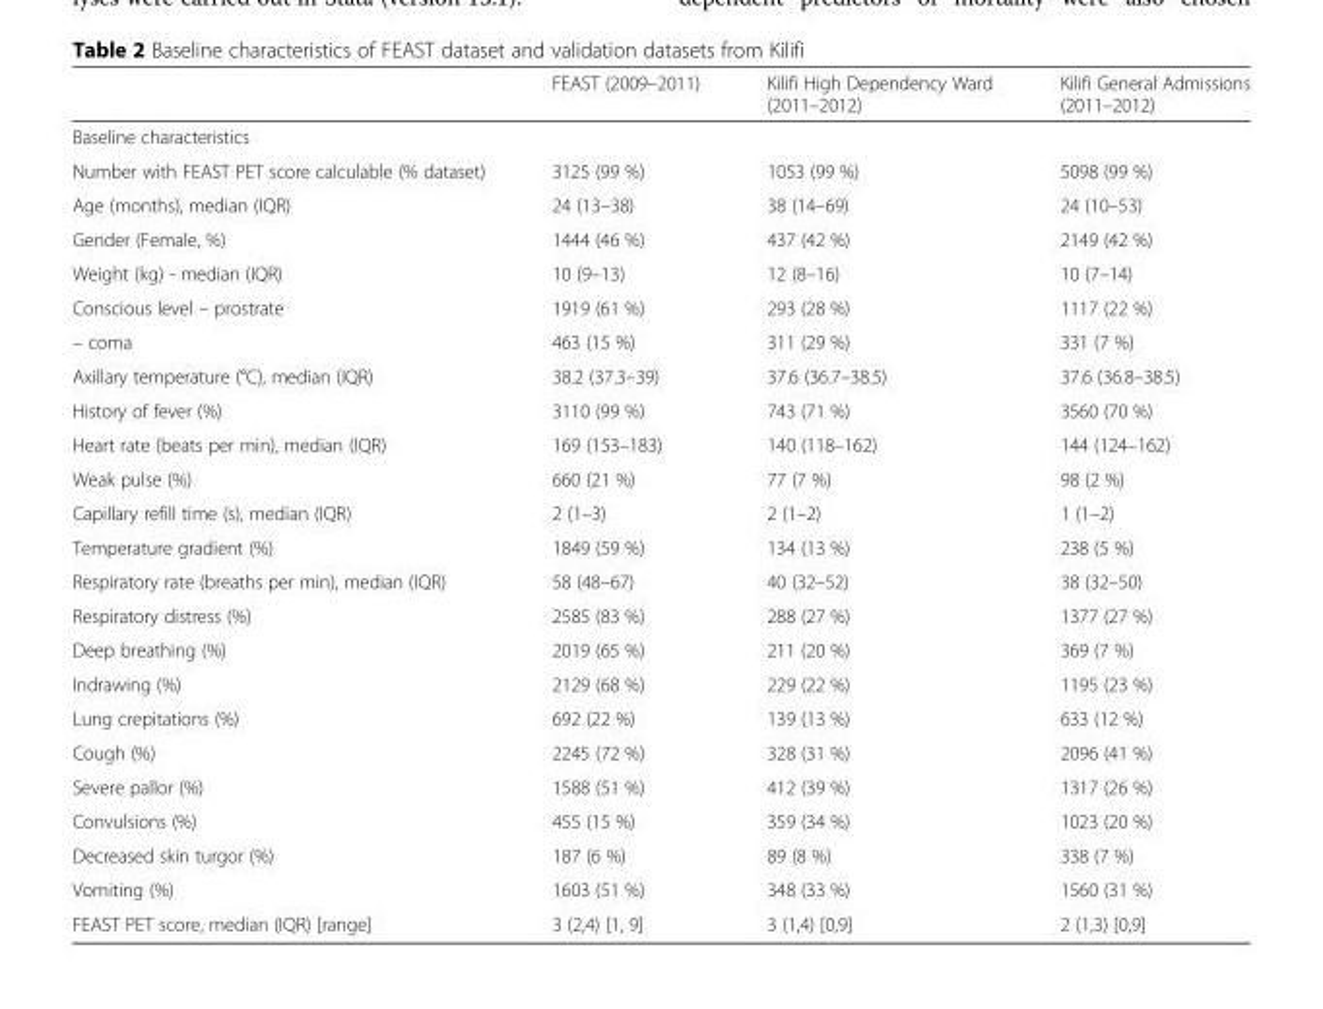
<table><thead><tr><td></td><td>FEAST (2009–2011)</td><td>Kilifi High Dependency Ward (2011–2012)</td><td>Kilifi General Admissions (2011–2012)</td></tr></thead><tbody><tr><td colspan="4">Baseline characteristics</td></tr><tr><td>Number with FEAST PET score calculable (% dataset)</td><td>3125 (99 %)</td><td>1053 (99 %)</td><td>5098 (99 %)</td></tr><tr><td>Age (months), median (IQR)</td><td>24 (13–38)</td><td>38 (14–69)</td><td>24 (10–53)</td></tr><tr><td>Gender (Female, %)</td><td>1444 (46 %)</td><td>437 (42 %)</td><td>2149 (42 %)</td></tr><tr><td>Weight (kg) - median (IQR)</td><td>10 (9–13)</td><td>12 (8–16)</td><td>10 (7–14)</td></tr><tr><td>Conscious level – prostrate</td><td>1919 (61 %)</td><td>293 (28 %)</td><td>1117 (22 %)</td></tr><tr><td>– coma</td><td>463 (15 %)</td><td>311 (29 %)</td><td>331 (7 %)</td></tr><tr><td>Axillary temperature (°C), median (IQR)</td><td>38.2 (37.3–39)</td><td>37.6 (36.7–38.5)</td><td>37.6 (36.8–38.5)</td></tr><tr><td>History of fever (%)</td><td>3110 (99 %)</td><td>743 (71 %)</td><td>3560 (70 %)</td></tr><tr><td>Heart rate (beats per min), median (IQR)</td><td>169 (153–183)</td><td>140 (118–162)</td><td>144 (124–162)</td></tr><tr><td>Weak pulse (%)</td><td>660 (21 %)</td><td>77 (7 %)</td><td>98 (2 %)</td></tr><tr><td>Capillary refill time (s), median (IQR)</td><td>2 (1–3)</td><td>2 (1–2)</td><td>1 (1–2)</td></tr><tr><td>Temperature gradient (%)</td><td>1849 (59 %)</td><td>134 (13 %)</td><td>238 (5 %)</td></tr><tr><td>Respiratory rate (breaths per min), median (IQR)</td><td>58 (48–67)</td><td>40 (32–52)</td><td>38 (32–50)</td></tr><tr><td>Respiratory distress (%)</td><td>2585 (83 %)</td><td>288 (27 %)</td><td>1377 (27 %)</td></tr><tr><td>Deep breathing (%)</td><td>2019 (65 %)</td><td>211 (20 %)</td><td>369 (7 %)</td></tr><tr><td>Indrawing (%)</td><td>2129 (68 %)</td><td>229 (22 %)</td><td>1195 (23 %)</td></tr><tr><td>Lung crepitations (%)</td><td>692 (22 %)</td><td>139 (13 %)</td><td>633 (12 %)</td></tr><tr><td>Cough (%)</td><td>2245 (72 %)</td><td>328 (31 %)</td><td>2096 (41 %)</td></tr><tr><td>Severe pallor (%)</td><td>1588 (51 %)</td><td>412 (39 %)</td><td>1317 (26 %)</td></tr><tr><td>Convulsions (%)</td><td>455 (15 %)</td><td>359 (34 %)</td><td>1023 (20 %)</td></tr><tr><td>Decreased skin turgor (%)</td><td>187 (6 %)</td><td>89 (8 %)</td><td>338 (7 %)</td></tr><tr><td>Vomiting (%)</td><td>1603 (51 %)</td><td>348 (33 %)</td><td>1560 (31 %)</td></tr><tr><td>FEAST PET score, median (IQR) [range]</td><td>3 (2,4) [1, 9]</td><td>3 (1,4) [0,9]</td><td>2 (1,3) [0,9]</td></tr></tbody></table>